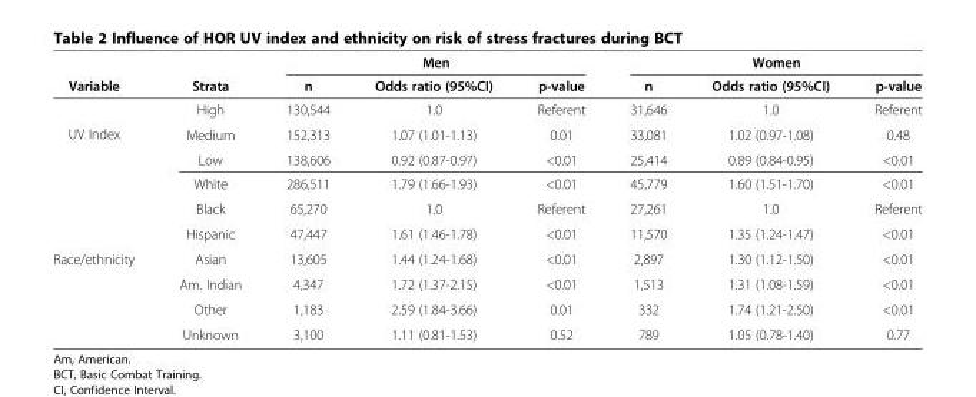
<table><thead><tr><td rowspan="2">Variable</td><td rowspan="2">Strata</td><td colspan="3">Men</td><td colspan="3">Women</td></tr><tr><td>n</td><td>Odds ratio (95%CI)</td><td>p-value</td><td>n</td><td>Odds ratio (95%CI)</td><td>p-value</td></tr></thead><tbody><tr><td rowspan="3">UV Index</td><td>High</td><td>130,544</td><td>1.0</td><td>Referent</td><td>31,646</td><td>1.0</td><td>Referent</td></tr><tr><td>Medium</td><td>152,313</td><td>1.07 (1.01-1.13)</td><td>0.01</td><td>33,081</td><td>1.02 (0.97-1.08)</td><td>0.48</td></tr><tr><td>Low</td><td>138,606</td><td>0.92 (0.87-0.97)</td><td>&lt;0.01</td><td>25,414</td><td>0.89 (0.84-0.95)</td><td>&lt;0.01</td></tr><tr><td rowspan="7">Race/ethnicity</td><td>White</td><td>286,511</td><td>1.79 (1.66-1.93)</td><td>&lt;0.01</td><td>45,779</td><td>1.60 (1.51-1.70)</td><td>&lt;0.01</td></tr><tr><td>Black</td><td>65,270</td><td>1.0</td><td>Referent</td><td>27,261</td><td>1.0</td><td>Referent</td></tr><tr><td>Hispanic</td><td>47,447</td><td>1.61 (1.46-1.78)</td><td>&lt;0.01</td><td>11,570</td><td>1.35 (1.24-1.47)</td><td>&lt;0.01</td></tr><tr><td>Asian</td><td>13,605</td><td>1.44 (1.24-1.68)</td><td>&lt;0.01</td><td>2,897</td><td>1.30 (1.12-1.50)</td><td>&lt;0.01</td></tr><tr><td>Am. Indian</td><td>4,347</td><td>1.72 (1.37-2.15)</td><td>&lt;0.01</td><td>1,513</td><td>1.31 (1.08-1.59)</td><td>&lt;0.01</td></tr><tr><td>Other</td><td>1,183</td><td>2.59 (1.84-3.66)</td><td>0.01</td><td>332</td><td>1.74 (1.21-2.50)</td><td>&lt;0.01</td></tr><tr><td>Unknown</td><td>3,100</td><td>1.11 (0.81-1.53)</td><td>0.52</td><td>789</td><td>1.05 (0.78-1.40)</td><td>0.77</td></tr></tbody></table>